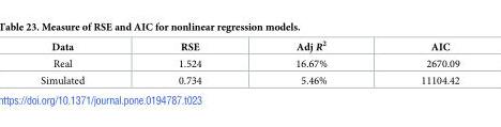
<table><thead><tr><td>Data</td><td>RSE</td><td>Adj R<sup>2</sup></td><td>AIC</td></tr></thead><tbody><tr><td>Real</td><td>1.524</td><td>16.67%</td><td>2670.09</td></tr><tr><td>Simulated</td><td>0.734</td><td>5.46%</td><td>11104.42</td></tr></tbody></table>